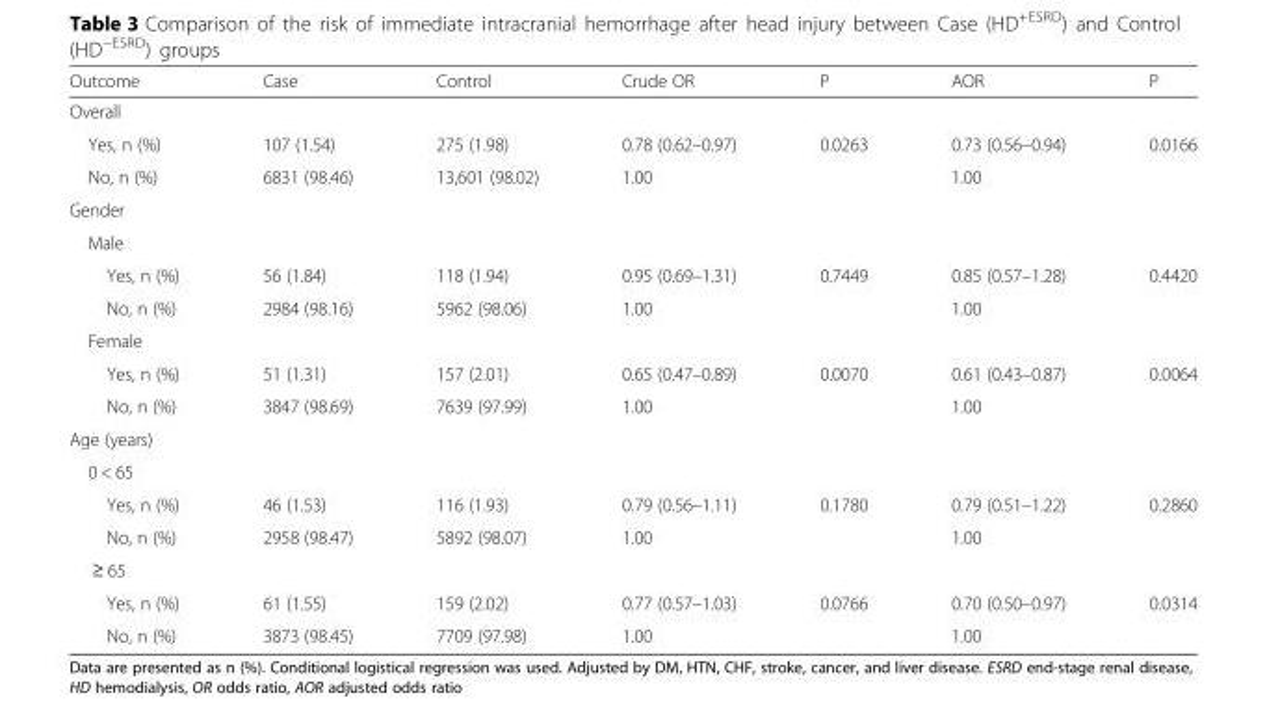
<table><thead><tr><td>Outcome</td><td>Case</td><td>Control</td><td>Crude OR</td><td>P</td><td>AOR</td><td>P</td></tr></thead><tbody><tr><td colspan="7">Overall</td></tr><tr><td>Yes, n (%)</td><td>107 (1.54)</td><td>275 (1.98)</td><td>0.78 (0.62–0.97)</td><td>0.0263</td><td>0.73 (0.56–0.94)</td><td>0.0166</td></tr><tr><td>No, n (%)</td><td>6831 (98.46)</td><td>13,601 (98.02)</td><td>1.00</td><td></td><td>1.00</td><td></td></tr><tr><td colspan="7">Gender</td></tr><tr><td colspan="7">Male</td></tr><tr><td>Yes, n (%)</td><td>56 (1.84)</td><td>118 (1.94)</td><td>0.95 (0.69–1.31)</td><td>0.7449</td><td>0.85 (0.57–1.28)</td><td>0.4420</td></tr><tr><td>No, n (%)</td><td>2984 (98.16)</td><td>5962 (98.06)</td><td>1.00</td><td></td><td>1.00</td><td></td></tr><tr><td colspan="7">Female</td></tr><tr><td>Yes, n (%)</td><td>51 (1.31)</td><td>157 (2.01)</td><td>0.65 (0.47–0.89)</td><td>0.0070</td><td>0.61 (0.43–0.87)</td><td>0.0064</td></tr><tr><td>No, n (%)</td><td>3847 (98.69)</td><td>7639 (97.99)</td><td>1.00</td><td></td><td>1.00</td><td></td></tr><tr><td colspan="7">Age (years)</td></tr><tr><td colspan="7">0 &lt; 65</td></tr><tr><td>Yes, n (%)</td><td>46 (1.53)</td><td>116 (1.93)</td><td>0.79 (0.56–1.11)</td><td>0.1780</td><td>0.79 (0.51–1.22)</td><td>0.2860</td></tr><tr><td>No, n (%)</td><td>2958 (98.47)</td><td>5892 (98.07)</td><td>1.00</td><td></td><td>1.00</td><td></td></tr><tr><td colspan="7">≥ 65</td></tr><tr><td>Yes, n (%)</td><td>61 (1.55)</td><td>159 (2.02)</td><td>0.77 (0.57–1.03)</td><td>0.0766</td><td>0.70 (0.50–0.97)</td><td>0.0314</td></tr><tr><td>No, n (%)</td><td>3873 (98.45)</td><td>7709 (97.98)</td><td>1.00</td><td></td><td>1.00</td><td></td></tr></tbody></table>